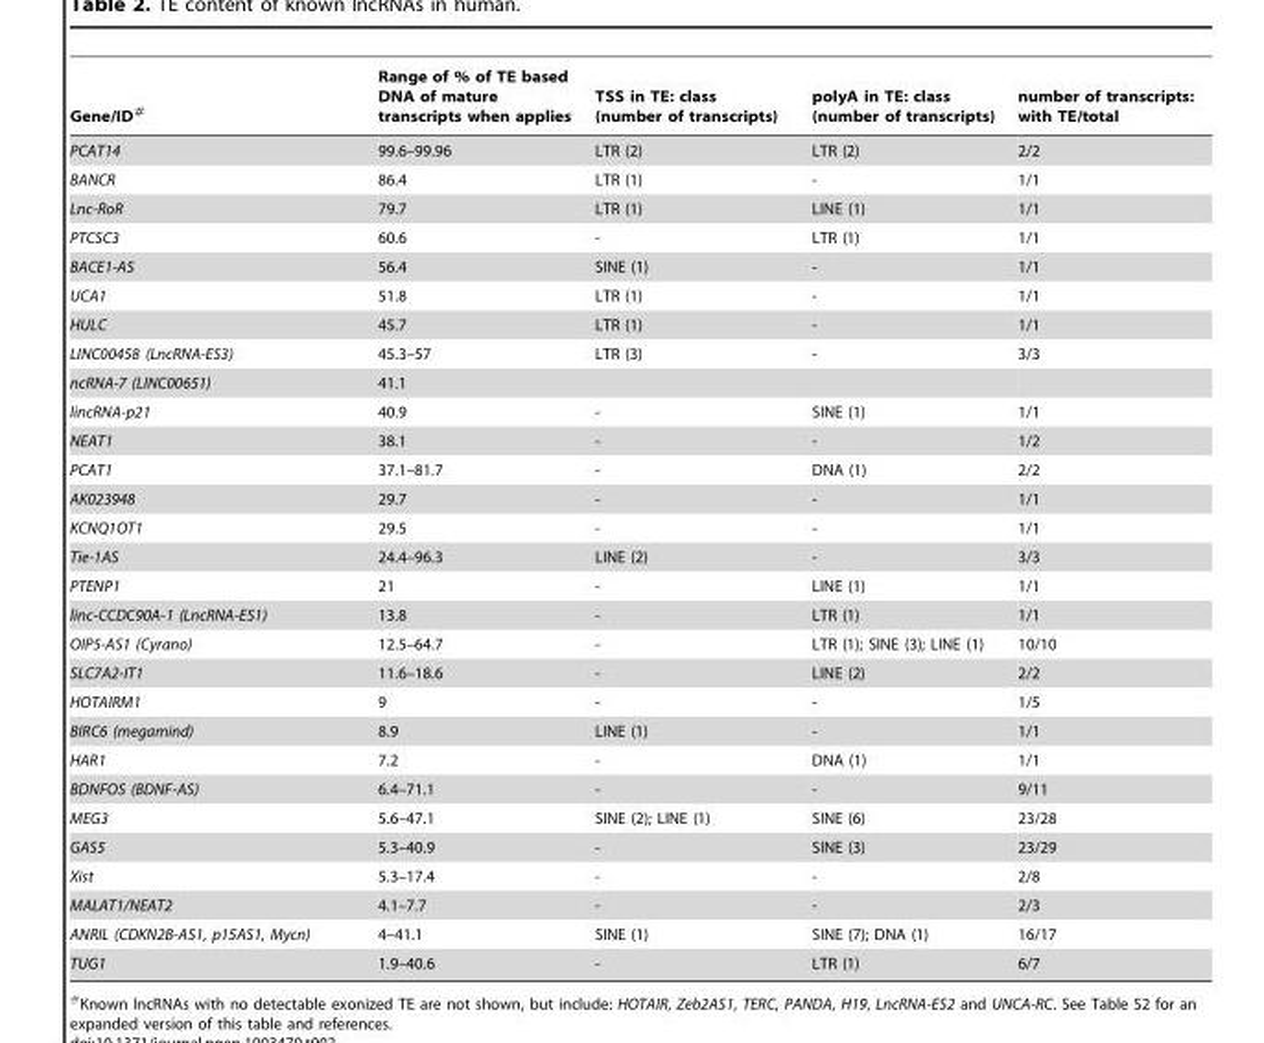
<table><thead><tr><td>Gene/ID#</td><td>Range of % of TE based DNA of mature transcripts when applies</td><td>TSS in TE: class (number of transcripts)</td><td>polyA in TE: class (number of transcripts)</td><td>number of transcripts: with TE/total</td></tr></thead><tbody><tr><td>PCAT14</td><td>99.6–99.96</td><td>LTR (2)</td><td>LTR (2)</td><td>2/2</td></tr><tr><td>BANCR</td><td>86.4</td><td>LTR (1)</td><td>-</td><td>1/1</td></tr><tr><td>Lnc-RoR</td><td>79.7</td><td>LTR (1)</td><td>LINE (1)</td><td>1/1</td></tr><tr><td>PTCSC3</td><td>60.6</td><td>-</td><td>LTR (1)</td><td>1/1</td></tr><tr><td>BACE1-AS</td><td>56.4</td><td>SINE (1)</td><td>-</td><td>1/1</td></tr><tr><td>UCA1</td><td>51.8</td><td>LTR (1)</td><td>-</td><td>1/1</td></tr><tr><td>HULC</td><td>45.7</td><td>LTR (1)</td><td>-</td><td>1/1</td></tr><tr><td>LINC00458 (LncRNA-ES3)</td><td>45.3–57</td><td>LTR (3)</td><td>-</td><td>3/3</td></tr><tr><td>ncRNA-7 (LINC00651)</td><td>41.1</td><td></td><td></td><td></td></tr><tr><td>lincRNA-p21</td><td>40.9</td><td>-</td><td>SINE (1)</td><td>1/1</td></tr><tr><td>NEAT1</td><td>38.1</td><td>-</td><td>-</td><td>1/2</td></tr><tr><td>PCAT1</td><td>37.1–81.7</td><td>-</td><td>DNA (1)</td><td>2/2</td></tr><tr><td>AK023948</td><td>29.7</td><td>-</td><td>-</td><td>1/1</td></tr><tr><td>KCNQ1OT1</td><td>29.5</td><td>-</td><td>-</td><td>1/1</td></tr><tr><td>Tie-1AS</td><td>24.4–96.3</td><td>LINE (2)</td><td>-</td><td>3/3</td></tr><tr><td>PTENP1</td><td>21</td><td>-</td><td>LINE (1)</td><td>1/1</td></tr><tr><td>linc-CCDC90A-1 (LncRNA-ES1)</td><td>13.8</td><td>-</td><td>LTR (1)</td><td>1/1</td></tr><tr><td>OIP5-AS1 (Cyrano)</td><td>12.5–64.7</td><td>-</td><td>LTR (1); SINE (3); LINE (1)</td><td>10/10</td></tr><tr><td>SLC7A2-IT1</td><td>11.6–18.6</td><td>-</td><td>LINE (2)</td><td>2/2</td></tr><tr><td>HOTAIRM1</td><td>9</td><td>-</td><td>-</td><td>1/5</td></tr><tr><td>BIRC6 (megamind)</td><td>8.9</td><td>LINE (1)</td><td>-</td><td>1/1</td></tr><tr><td>HAR1</td><td>7.2</td><td>-</td><td>DNA (1)</td><td>1/1</td></tr><tr><td>BDNFOS (BDNF-AS)</td><td>6.4–71.1</td><td>-</td><td>-</td><td>9/11</td></tr><tr><td>MEG3</td><td>5.6–47.1</td><td>SINE (2); LINE (1)</td><td>SINE (6)</td><td>23/28</td></tr><tr><td>GAS5</td><td>5.3–40.9</td><td>-</td><td>SINE (3)</td><td>23/29</td></tr><tr><td>Xist</td><td>5.3–17.4</td><td>-</td><td>-</td><td>2/8</td></tr><tr><td>MALAT1/NEAT2</td><td>4.1–7.7</td><td>-</td><td>-</td><td>2/3</td></tr><tr><td>ANRIL (CDKN2B-AS1, p15AS1, Mycn)</td><td>4–41.1</td><td>SINE (1)</td><td>SINE (7); DNA (1)</td><td>16/17</td></tr><tr><td>TUG1</td><td>1.9–40.6</td><td>-</td><td>LTR (1)</td><td>6/7</td></tr></tbody></table>